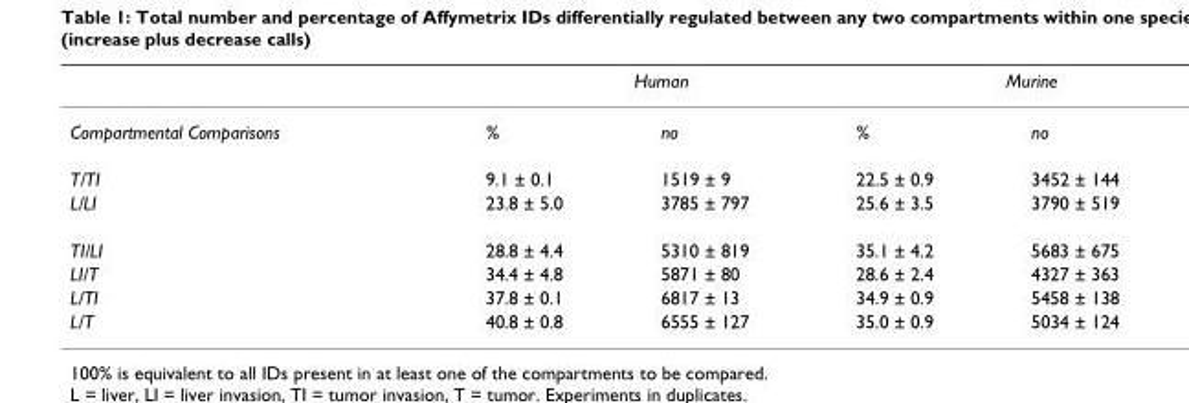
<table><thead><tr><td rowspan="2">Compartmental Comparisons</td><td colspan="2">Human</td><td colspan="2">Murine</td></tr><tr><td>%</td><td>no</td><td>%</td><td>no</td></tr></thead><tbody><tr><td>T/TI</td><td>9.1 ± 0.1</td><td>1519 ± 9</td><td>22.5 ± 0.9</td><td>3452 ± 144</td></tr><tr><td>L/LI</td><td>23.8 ± 5.0</td><td>3785 ± 797</td><td>25.6 ± 3.5</td><td>3790 ± 519</td></tr><tr><td>TI/LI</td><td>28.8 ± 4.4</td><td>5310 ± 819</td><td>35.1 ± 4.2</td><td>5683 ± 675</td></tr><tr><td>LI/T</td><td>34.4 ± 4.8</td><td>5871 ± 80</td><td>28.6 ± 2.4</td><td>4327 ± 363</td></tr><tr><td>L/TI</td><td>37.8 ± 0.1</td><td>6817 ± 13</td><td>34.9 ± 0.9</td><td>5458 ± 138</td></tr><tr><td>L/T</td><td>40.8 ± 0.8</td><td>6555 ± 127</td><td>35.0 ± 0.9</td><td>5034 ± 124</td></tr></tbody></table>